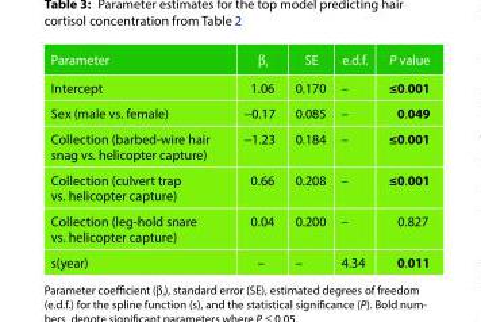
<table><thead><tr><td>Parameter</td><td>β<sub>i</sub></td><td>SE</td><td>e.d.f.</td><td>P value</td></tr></thead><tbody><tr><td>Intercept</td><td>1.06</td><td>0.170</td><td>–</td><td>≤0.001</td></tr><tr><td>Sex (male vs. female)</td><td>−0.17</td><td>0.085</td><td>–</td><td>0.049</td></tr><tr><td>Collection (barbed-wire hair snag vs. helicopter capture)</td><td>−1.23</td><td>0.184</td><td>–</td><td>≤0.001</td></tr><tr><td>Collection (culvert trap vs. helicopter capture)</td><td>0.66</td><td>0.208</td><td>–</td><td>≤0.001</td></tr><tr><td>Collection (leg-hold snare vs. helicopter capture)</td><td>0.04</td><td>0.200</td><td>–</td><td>0.827</td></tr><tr><td>s(year)</td><td>–</td><td>–</td><td>4.34</td><td>0.011</td></tr></tbody></table>